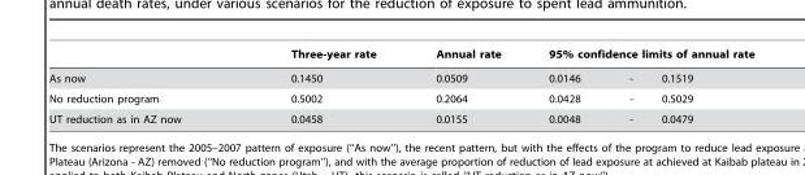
<table><thead><tr><td rowspan="2">As now</td><td rowspan="2">Three-year rate 0.1450</td><td rowspan="2">Annual rate 0.0509</td><td colspan="3">95% confidence limits of annual rate</td></tr><tr><td>0.0146</td><td>-</td><td>0.1519</td></tr></thead><tbody><tr><td>No reduction program</td><td>0.5002</td><td>0.2064</td><td>0.0428</td><td>-</td><td>0.5029</td></tr><tr><td>UT reduction as in AZ now</td><td>0.0458</td><td>0.0155</td><td>0.0048</td><td>-</td><td>0.0479</td></tr></tbody></table>